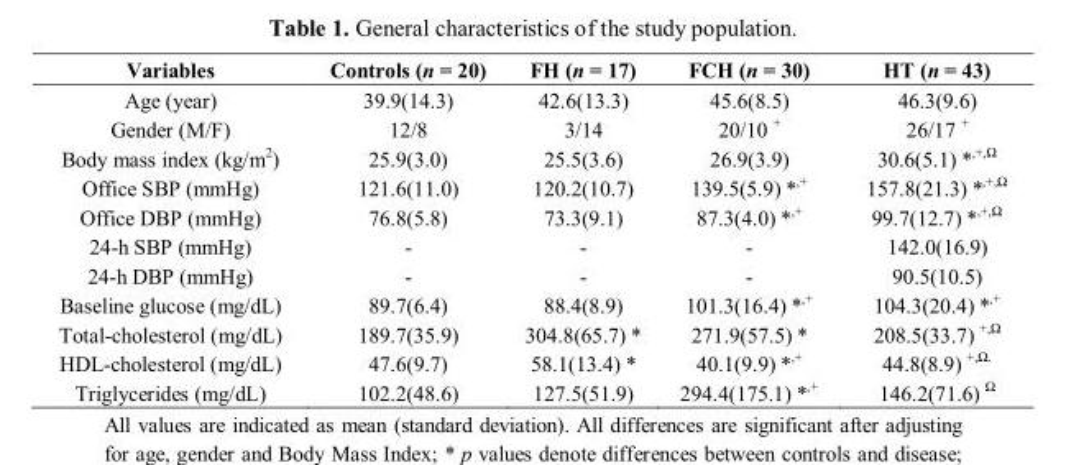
<table><thead><tr><td>Variables</td><td>Controls (n = 20)</td><td>FH (n = 17)</td><td>FCH (n = 30)</td><td>HT (n = 43)</td></tr></thead><tbody><tr><td>Age (year)</td><td>39.9(14.3)</td><td>42.6(13.3)</td><td>45.6(8.5)</td><td>46.3(9.6)</td></tr><tr><td>Gender (M/F)</td><td>12/8</td><td>3/14</td><td>20/10 +</td><td>26/17 +</td></tr><tr><td>Body mass index (kg/m<sup>2</sup>)</td><td>25.9(3.0)</td><td>25.5(3.6)</td><td>26.9(3.9)</td><td>30.6(5.1) *,+,Ω</td></tr><tr><td>Office SBP (mmHg)</td><td>121.6(11.0)</td><td>120.2(10.7)</td><td>139.5(5.9) *,+</td><td>157.8(21.3) *,+,Ω</td></tr><tr><td>Office DBP (mmHg)</td><td>76.8(5.8)</td><td>73.3(9.1)</td><td>87.3(4.0) *,+</td><td>99.7(12.7) *,+,Ω</td></tr><tr><td>24-h SBP (mmHg)</td><td>-</td><td>-</td><td>-</td><td>142.0(16.9)</td></tr><tr><td>24-h DBP (mmHg)</td><td>-</td><td>-</td><td>-</td><td>90.5(10.5)</td></tr><tr><td>Baseline glucose (mg/dL)</td><td>89.7(6.4)</td><td>88.4(8.9)</td><td>101.3(16.4) *,+</td><td>104.3(20.4) *,+</td></tr><tr><td>Total-cholesterol (mg/dL)</td><td>189.7(35.9)</td><td>304.8(65.7) *</td><td>271.9(57.5) *</td><td>208.5(33.7) +,Ω</td></tr><tr><td>HDL-cholesterol (mg/dL)</td><td>47.6(9.7)</td><td>58.1(13.4) *</td><td>40.1(9.9) *,+</td><td>44.8(8.9) +,Ω.</td></tr><tr><td>Triglycerides (mg/dL)</td><td>102.2(48.6)</td><td>127.5(51.9)</td><td>294.4(175.1) *,+</td><td>146.2(71.6) Ω</td></tr></tbody></table>